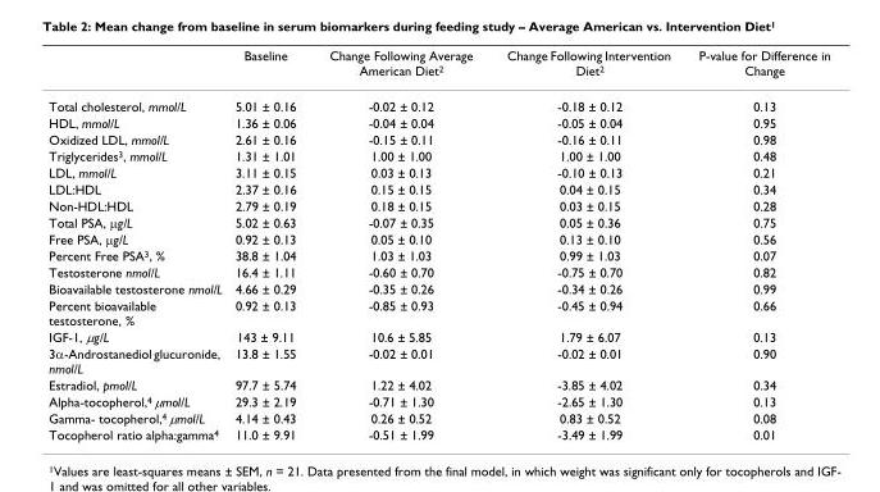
<table><thead><tr><td></td><td>Baseline</td><td>Change Following Average American Diet<sup>2</sup></td><td>Change Following Intervention Diet<sup>2</sup></td><td>P-value for Difference in Change</td></tr></thead><tbody><tr><td>Total cholesterol, mmol/L</td><td>5.01 ± 0.16</td><td>-0.02 ± 0.12</td><td>-0.18 ± 0.12</td><td>0.13</td></tr><tr><td>HDL, mmol/L</td><td>1.36 ± 0.06</td><td>-0.04 ± 0.04</td><td>-0.05 ± 0.04</td><td>0.95</td></tr><tr><td>Oxidized LDL, mmol/L</td><td>2.61 ± 0.16</td><td>-0.15 ± 0.11</td><td>-0.16 ± 0.11</td><td>0.98</td></tr><tr><td>Triglycerides<sup>3</sup>, mmol/L</td><td>1.31 ± 1.01</td><td>1.00 ± 1.00</td><td>1.00 ± 1.00</td><td>0.48</td></tr><tr><td>LDL, mmol/L</td><td>3.11 ± 0.15</td><td>0.03 ± 0.13</td><td>-0.10 ± 0.13</td><td>0.21</td></tr><tr><td>LDL:HDL</td><td>2.37 ± 0.16</td><td>0.15 ± 0.15</td><td>0.04 ± 0.15</td><td>0.34</td></tr><tr><td>Non-HDL:HDL</td><td>2.79 ± 0.19</td><td>0.18 ± 0.15</td><td>0.03 ± 0.15</td><td>0.28</td></tr><tr><td>Total PSA, µg/L</td><td>5.02 ± 0.63</td><td>-0.07 ± 0.35</td><td>0.05 ± 0.36</td><td>0.75</td></tr><tr><td>Free PSA, µg/L</td><td>0.92 ± 0.13</td><td>0.05 ± 0.10</td><td>0.13 ± 0.10</td><td>0.56</td></tr><tr><td>Percent Free PSA<sup>3</sup>, %</td><td>38.8 ± 1.04</td><td>1.03 ± 1.03</td><td>0.99 ± 1.03</td><td>0.07</td></tr><tr><td>Testosterone nmol/L</td><td>16.4 ± 1.11</td><td>-0.60 ± 0.70</td><td>-0.75 ± 0.70</td><td>0.82</td></tr><tr><td>Bioavailable testosterone nmol/L</td><td>4.66 ± 0.29</td><td>-0.35 ± 0.26</td><td>-0.34 ± 0.26</td><td>0.99</td></tr><tr><td>Percent bioavailable testosterone, %</td><td>0.92 ± 0.13</td><td>-0.85 ± 0.93</td><td>-0.45 ± 0.94</td><td>0.66</td></tr><tr><td>IGF-1, µg/L</td><td>143 ± 9.11</td><td>10.6 ± 5.85</td><td>1.79 ± 6.07</td><td>0.13</td></tr><tr><td>3α-Androstanediol glucuronide, nmol/L</td><td>13.8 ± 1.55</td><td>-0.02 ± 0.01</td><td>-0.02 ± 0.01</td><td>0.90</td></tr><tr><td>Estradiol, pmol/L</td><td>97.7 ± 5.74</td><td>1.22 ± 4.02</td><td>-3.85 ± 4.02</td><td>0.34</td></tr><tr><td>Alpha-tocopherol,<sup>4</sup> µmol/L</td><td>29.3 ± 2.19</td><td>-0.71 ± 1.30</td><td>-2.65 ± 1.30</td><td>0.13</td></tr><tr><td>Gamma- tocopherol,<sup>4</sup> µmol/L</td><td>4.14 ± 0.43</td><td>0.26 ± 0.52</td><td>0.83 ± 0.52</td><td>0.08</td></tr><tr><td>Tocopherol ratio alpha:gamma<sup>4</sup></td><td>11.0 ± 9.91</td><td>-0.51 ± 1.99</td><td>-3.49 ± 1.99</td><td>0.01</td></tr></tbody></table>